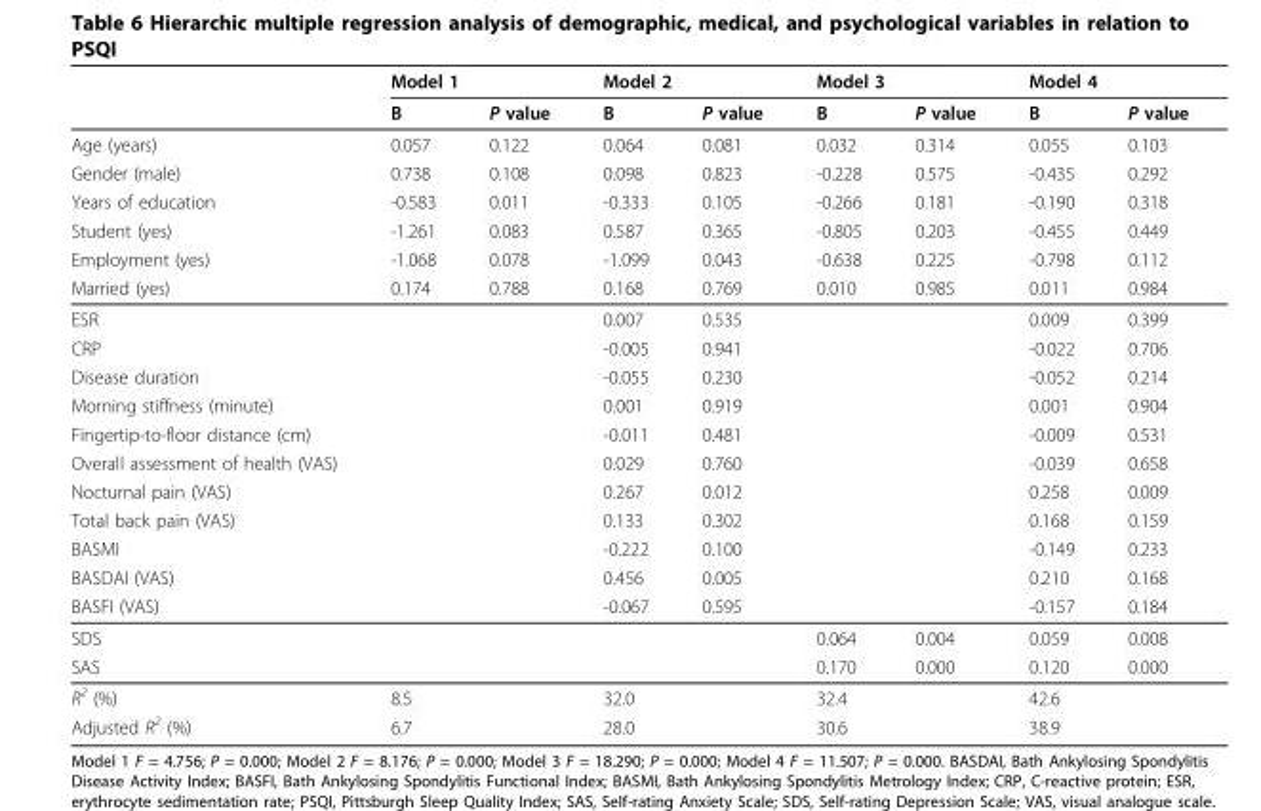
<table><thead><tr><td rowspan="2"></td><td colspan="2">Model 1</td><td colspan="2">Model 2</td><td colspan="2">Model 3</td><td colspan="2">Model 4</td></tr><tr><td>B</td><td>P value</td><td>B</td><td>P value</td><td>B</td><td>P value</td><td>B</td><td>P value</td></tr></thead><tbody><tr><td>Age (years)</td><td>0.057</td><td>0.122</td><td>0.064</td><td>0.081</td><td>0.032</td><td>0.314</td><td>0.055</td><td>0.103</td></tr><tr><td>Gender (male)</td><td>0.738</td><td>0.108</td><td>0.098</td><td>0.823</td><td>-0.228</td><td>0.575</td><td>-0.435</td><td>0.292</td></tr><tr><td>Years of education</td><td>-0.583</td><td>0.011</td><td>-0.333</td><td>0.105</td><td>-0.266</td><td>0.181</td><td>-0.190</td><td>0.318</td></tr><tr><td>Student (yes)</td><td>-1.261</td><td>0.083</td><td>0.587</td><td>0.365</td><td>-0.805</td><td>0.203</td><td>-0.455</td><td>0.449</td></tr><tr><td>Employment (yes)</td><td>-1.068</td><td>0.078</td><td>-1.099</td><td>0.043</td><td>-0.638</td><td>0.225</td><td>-0.798</td><td>0.112</td></tr><tr><td>Married (yes)</td><td>0.174</td><td>0.788</td><td>0.168</td><td>0.769</td><td>0.010</td><td>0.985</td><td>0.011</td><td>0.984</td></tr><tr><td>ESR</td><td></td><td></td><td>0.007</td><td>0.535</td><td></td><td></td><td>0.009</td><td>0.399</td></tr><tr><td>CRP</td><td></td><td></td><td>-0.005</td><td>0.941</td><td></td><td></td><td>-0.022</td><td>0.706</td></tr><tr><td>Disease duration</td><td></td><td></td><td>-0.055</td><td>0.230</td><td></td><td></td><td>-0.052</td><td>0.214</td></tr><tr><td>Morning stiffness (minute)</td><td></td><td></td><td>0.001</td><td>0.919</td><td></td><td></td><td>0.001</td><td>0.904</td></tr><tr><td>Fingertip-to-floor distance (cm)</td><td></td><td></td><td>-0.011</td><td>0.481</td><td></td><td></td><td>-0.009</td><td>0.531</td></tr><tr><td>Overall assessment of health (VAS)</td><td></td><td></td><td>0.029</td><td>0.760</td><td></td><td></td><td>-0.039</td><td>0.658</td></tr><tr><td>Nocturnal pain (VAS)</td><td></td><td></td><td>0.267</td><td>0.012</td><td></td><td></td><td>0.258</td><td>0.009</td></tr><tr><td>Total back pain (VAS)</td><td></td><td></td><td>0.133</td><td>0.302</td><td></td><td></td><td>0.168</td><td>0.159</td></tr><tr><td>BASMI</td><td></td><td></td><td>-0.222</td><td>0.100</td><td></td><td></td><td>-0.149</td><td>0.233</td></tr><tr><td>BASDAI (VAS)</td><td></td><td></td><td>0.456</td><td>0.005</td><td></td><td></td><td>0.210</td><td>0.168</td></tr><tr><td>BASFI (VAS)</td><td></td><td></td><td>-0.067</td><td>0.595</td><td></td><td></td><td>-0.157</td><td>0.184</td></tr><tr><td>SDS</td><td></td><td></td><td></td><td></td><td>0.064</td><td>0.004</td><td>0.059</td><td>0.008</td></tr><tr><td>SAS</td><td></td><td></td><td></td><td></td><td>0.170</td><td>0.000</td><td>0.120</td><td>0.000</td></tr><tr><td>R<sup>2</sup> (%)</td><td>8.5</td><td></td><td>32.0</td><td></td><td>32.4</td><td></td><td>42.6</td><td></td></tr><tr><td>Adjusted R<sup>2</sup> (%)</td><td>6.7</td><td></td><td>28.0</td><td></td><td>30.6</td><td></td><td>38.9</td><td></td></tr></tbody></table>